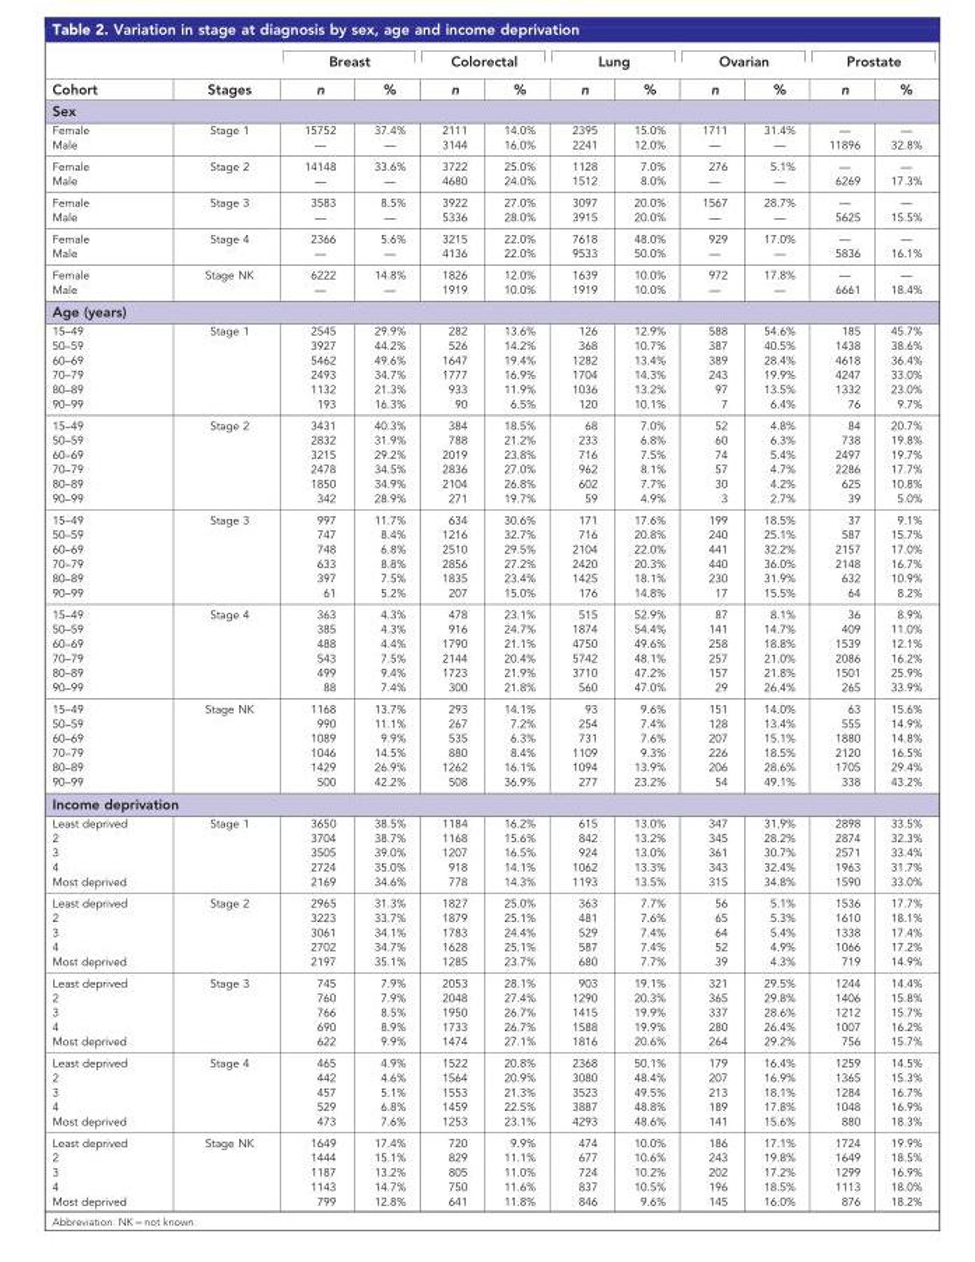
<table><thead><tr><td rowspan="2">Cohort</td><td rowspan="2">Stages</td><td colspan="2">Breast</td><td colspan="2">Colorectal</td><td colspan="2">Lung</td><td colspan="2">Ovarian</td><td colspan="2">Prostate</td></tr><tr><td>n</td><td>%</td><td>n</td><td>%</td><td>n</td><td>%</td><td>n</td><td>%</td><td>n</td><td>%</td></tr></thead><tbody><tr><td colspan="12">Sex</td></tr><tr><td>Female</td><td>Stage 1</td><td>15752</td><td>37.4%</td><td>2111</td><td>14.0%</td><td>2395</td><td>15.0%</td><td>1711</td><td>31.4%</td><td>—</td><td>—</td></tr><tr><td>Male</td><td></td><td>—</td><td>—</td><td>3144</td><td>16.0%</td><td>2241</td><td>12.0%</td><td>—</td><td>—</td><td>11896</td><td>32.8%</td></tr><tr><td>Female</td><td>Stage 2</td><td>14148</td><td>33.6%</td><td>3722</td><td>25.0%</td><td>1128</td><td>7.0%</td><td>276</td><td>5.1%</td><td>—</td><td>—</td></tr><tr><td>Male</td><td></td><td>—</td><td>—</td><td>4680</td><td>24.0%</td><td>1512</td><td>8.0%</td><td>—</td><td>—</td><td>6269</td><td>17.3%</td></tr><tr><td>Female</td><td>Stage 3</td><td>3583</td><td>8.5%</td><td>3922</td><td>27.0%</td><td>3097</td><td>20.0%</td><td>1567</td><td>28.7%</td><td>—</td><td>—</td></tr><tr><td>Male</td><td></td><td>—</td><td>—</td><td>5336</td><td>28.0%</td><td>3915</td><td>20.0%</td><td>—</td><td>—</td><td>5625</td><td>15.5%</td></tr><tr><td>Female</td><td>Stage 4</td><td>2366</td><td>5.6%</td><td>3215</td><td>22.0%</td><td>7618</td><td>48.0%</td><td>929</td><td>17.0%</td><td>—</td><td>—</td></tr><tr><td>Male</td><td></td><td>—</td><td>—</td><td>4136</td><td>22.0%</td><td>9533</td><td>50.0%</td><td>—</td><td>—</td><td>5836</td><td>16.1%</td></tr><tr><td>Female</td><td>Stage NK</td><td>6222</td><td>14.8%</td><td>1826</td><td>12.0%</td><td>1639</td><td>10.0%</td><td>972</td><td>17.8%</td><td>—</td><td>—</td></tr><tr><td>Male</td><td></td><td>—</td><td>—</td><td>1919</td><td>10.0%</td><td>1919</td><td>10.0%</td><td>—</td><td>—</td><td>6661</td><td>18.4%</td></tr><tr><td colspan="12">Age (years)</td></tr><tr><td>15–49</td><td>Stage 1</td><td>2545</td><td>29.9%</td><td>282</td><td>13.6%</td><td>126</td><td>12.9%</td><td>588</td><td>54.6%</td><td>185</td><td>45.7%</td></tr><tr><td>50–59</td><td></td><td>3927</td><td>44.2%</td><td>526</td><td>14.2%</td><td>368</td><td>10.7%</td><td>387</td><td>40.5%</td><td>1438</td><td>38.6%</td></tr><tr><td>60–69</td><td></td><td>5462</td><td>49.6%</td><td>1647</td><td>19.4%</td><td>1282</td><td>13.4%</td><td>389</td><td>28.4%</td><td>4618</td><td>36.4%</td></tr><tr><td>70–79</td><td></td><td>2493</td><td>34.7%</td><td>1777</td><td>16.9%</td><td>1704</td><td>14.3%</td><td>243</td><td>19.9%</td><td>4247</td><td>33.0%</td></tr><tr><td>80–89</td><td></td><td>1132</td><td>21.3%</td><td>933</td><td>11.9%</td><td>1036</td><td>13.2%</td><td>97</td><td>13.5%</td><td>1332</td><td>23.0%</td></tr><tr><td>90–99</td><td></td><td>193</td><td>16.3%</td><td>90</td><td>6.5%</td><td>120</td><td>10.1%</td><td>7</td><td>6.4%</td><td>76</td><td>9.7%</td></tr><tr><td>15–49</td><td>Stage 2</td><td>3431</td><td>40.3%</td><td>384</td><td>18.5%</td><td>68</td><td>7.0%</td><td>52</td><td>4.8%</td><td>84</td><td>20.7%</td></tr><tr><td>50–59</td><td></td><td>2832</td><td>31.9%</td><td>788</td><td>21.2%</td><td>233</td><td>6.8%</td><td>60</td><td>6.3%</td><td>738</td><td>19.8%</td></tr><tr><td>60–69</td><td></td><td>3215</td><td>29.2%</td><td>2019</td><td>23.8%</td><td>716</td><td>7.5%</td><td>74</td><td>5.4%</td><td>2497</td><td>19.7%</td></tr><tr><td>70–79</td><td></td><td>2478</td><td>34.5%</td><td>2836</td><td>27.0%</td><td>962</td><td>8.1%</td><td>57</td><td>4.7%</td><td>2286</td><td>17.7%</td></tr><tr><td>80–89</td><td></td><td>1850</td><td>34.9%</td><td>2104</td><td>26.8%</td><td>602</td><td>7.7%</td><td>30</td><td>4.2%</td><td>625</td><td>10.8%</td></tr><tr><td>90–99</td><td></td><td>342</td><td>28.9%</td><td>271</td><td>19.7%</td><td>59</td><td>4.9%</td><td>3</td><td>2.7%</td><td>39</td><td>5.0%</td></tr><tr><td>15–49</td><td>Stage 3</td><td>997</td><td>11.7%</td><td>634</td><td>30.6%</td><td>171</td><td>17.6%</td><td>199</td><td>18.5%</td><td>37</td><td>9.1%</td></tr><tr><td>50–59</td><td></td><td>747</td><td>8.4%</td><td>1216</td><td>32.7%</td><td>716</td><td>20.8%</td><td>240</td><td>25.1%</td><td>587</td><td>15.7%</td></tr><tr><td>60–69</td><td></td><td>748</td><td>6.8%</td><td>2510</td><td>29.5%</td><td>2104</td><td>22.0%</td><td>441</td><td>32.2%</td><td>2157</td><td>17.0%</td></tr><tr><td>70–79</td><td></td><td>633</td><td>8.8%</td><td>2856</td><td>27.2%</td><td>2420</td><td>20.3%</td><td>440</td><td>36.0%</td><td>2148</td><td>16.7%</td></tr><tr><td>80–89</td><td></td><td>397</td><td>7.5%</td><td>1835</td><td>23.4%</td><td>1425</td><td>18.1%</td><td>230</td><td>31.9%</td><td>632</td><td>10.9%</td></tr><tr><td>90–99</td><td></td><td>61</td><td>5.2%</td><td>207</td><td>15.0%</td><td>176</td><td>14.8%</td><td>17</td><td>15.5%</td><td>64</td><td>8.2%</td></tr><tr><td>15–49</td><td>Stage 4</td><td>363</td><td>4.3%</td><td>478</td><td>23.1%</td><td>515</td><td>52.9%</td><td>87</td><td>8.1%</td><td>36</td><td>8.9%</td></tr><tr><td>50–59</td><td></td><td>385</td><td>4.3%</td><td>916</td><td>24.7%</td><td>1874</td><td>54.4%</td><td>141</td><td>14.7%</td><td>409</td><td>11.0%</td></tr><tr><td>60–69</td><td></td><td>488</td><td>4.4%</td><td>1790</td><td>21.1%</td><td>4750</td><td>49.6%</td><td>258</td><td>18.8%</td><td>1539</td><td>12.1%</td></tr><tr><td>70–79</td><td></td><td>543</td><td>7.5%</td><td>2144</td><td>20.4%</td><td>5742</td><td>48.1%</td><td>257</td><td>21.0%</td><td>2086</td><td>16.2%</td></tr><tr><td>80–89</td><td></td><td>499</td><td>9.4%</td><td>1723</td><td>21.9%</td><td>3710</td><td>47.2%</td><td>157</td><td>21.8%</td><td>1501</td><td>25.9%</td></tr><tr><td>90–99</td><td></td><td>88</td><td>7.4%</td><td>300</td><td>21.8%</td><td>560</td><td>47.0%</td><td>29</td><td>26.4%</td><td>265</td><td>33.9%</td></tr><tr><td>15–49</td><td>Stage NK</td><td>1168</td><td>13.7%</td><td>293</td><td>14.1%</td><td>93</td><td>9.6%</td><td>151</td><td>14.0%</td><td>63</td><td>15.6%</td></tr><tr><td>50–59</td><td></td><td>990</td><td>11.1%</td><td>267</td><td>7.2%</td><td>254</td><td>7.4%</td><td>128</td><td>13.4%</td><td>555</td><td>14.9%</td></tr><tr><td>60–69</td><td></td><td>1089</td><td>9.9%</td><td>535</td><td>6.3%</td><td>731</td><td>7.6%</td><td>207</td><td>15.1%</td><td>1880</td><td>14.8%</td></tr><tr><td>70–79</td><td></td><td>1046</td><td>14.5%</td><td>880</td><td>8.4%</td><td>1109</td><td>9.3%</td><td>226</td><td>18.5%</td><td>2120</td><td>16.5%</td></tr><tr><td>80–89</td><td></td><td>1429</td><td>26.9%</td><td>1262</td><td>16.1%</td><td>1094</td><td>13.9%</td><td>206</td><td>28.6%</td><td>1705</td><td>29.4%</td></tr><tr><td>90–99</td><td></td><td>500</td><td>42.2%</td><td>508</td><td>36.9%</td><td>277</td><td>23.2%</td><td>54</td><td>49.1%</td><td>338</td><td>43.2%</td></tr><tr><td colspan="12">Income deprivation</td></tr><tr><td>Least deprived</td><td>Stage 1</td><td>3650</td><td>38.5%</td><td>1184</td><td>16.2%</td><td>615</td><td>13.0%</td><td>347</td><td>31.9%</td><td>2898</td><td>33.5%</td></tr><tr><td>2</td><td></td><td>3704</td><td>38.7%</td><td>1168</td><td>15.6%</td><td>842</td><td>13.2%</td><td>345</td><td>28.2%</td><td>2874</td><td>32.3%</td></tr><tr><td>3</td><td></td><td>3505</td><td>39.0%</td><td>1207</td><td>16.5%</td><td>924</td><td>13.0%</td><td>361</td><td>30.7%</td><td>2571</td><td>33.4%</td></tr><tr><td>4</td><td></td><td>2724</td><td>35.0%</td><td>918</td><td>14.1%</td><td>1062</td><td>13.3%</td><td>343</td><td>32.4%</td><td>1963</td><td>31.7%</td></tr><tr><td>Most deprived</td><td></td><td>2169</td><td>34.6%</td><td>778</td><td>14.3%</td><td>1193</td><td>13.5%</td><td>315</td><td>34.8%</td><td>1590</td><td>33.0%</td></tr><tr><td>Least deprived</td><td>Stage 2</td><td>2965</td><td>31.3%</td><td>1827</td><td>25.0%</td><td>363</td><td>7.7%</td><td>56</td><td>5.1%</td><td>1536</td><td>17.7%</td></tr><tr><td>2</td><td></td><td>3223</td><td>33.7%</td><td>1879</td><td>25.1%</td><td>481</td><td>7.6%</td><td>65</td><td>5.3%</td><td>1610</td><td>18.1%</td></tr><tr><td>3</td><td></td><td>3061</td><td>34.1%</td><td>1783</td><td>24.4%</td><td>529</td><td>7.4%</td><td>64</td><td>5.4%</td><td>1338</td><td>17.4%</td></tr><tr><td>4</td><td></td><td>2702</td><td>34.7%</td><td>1628</td><td>25.1%</td><td>587</td><td>7.4%</td><td>52</td><td>4.9%</td><td>1066</td><td>17.2%</td></tr><tr><td>Most deprived</td><td></td><td>2197</td><td>35.1%</td><td>1285</td><td>23.7%</td><td>680</td><td>7.7%</td><td>39</td><td>4.3%</td><td>719</td><td>14.9%</td></tr><tr><td>Least deprived</td><td>Stage 3</td><td>745</td><td>7.9%</td><td>2053</td><td>28.1%</td><td>903</td><td>19.1%</td><td>321</td><td>29.5%</td><td>1244</td><td>14.4%</td></tr><tr><td>2</td><td></td><td>760</td><td>7.9%</td><td>2048</td><td>27.4%</td><td>1290</td><td>20.3%</td><td>365</td><td>29.8%</td><td>1406</td><td>15.8%</td></tr><tr><td>3</td><td></td><td>766</td><td>8.5%</td><td>1950</td><td>26.7%</td><td>1415</td><td>19.9%</td><td>337</td><td>28.6%</td><td>1212</td><td>15.7%</td></tr><tr><td>4</td><td></td><td>690</td><td>8.9%</td><td>1733</td><td>26.7%</td><td>1588</td><td>19.9%</td><td>280</td><td>26.4%</td><td>1007</td><td>16.2%</td></tr><tr><td>Most deprived</td><td></td><td>622</td><td>9.9%</td><td>1474</td><td>27.1%</td><td>1816</td><td>20.6%</td><td>264</td><td>29.2%</td><td>756</td><td>15.7%</td></tr><tr><td>Least deprived</td><td>Stage 4</td><td>465</td><td>4.9%</td><td>1522</td><td>20.8%</td><td>2368</td><td>50.1%</td><td>179</td><td>16.4%</td><td>1259</td><td>14.5%</td></tr><tr><td>2</td><td></td><td>442</td><td>4.6%</td><td>1564</td><td>20.9%</td><td>3080</td><td>48.4%</td><td>207</td><td>16.9%</td><td>1365</td><td>15.3%</td></tr><tr><td>3</td><td></td><td>457</td><td>5.1%</td><td>1553</td><td>21.3%</td><td>3523</td><td>49.5%</td><td>213</td><td>18.1%</td><td>1284</td><td>16.7%</td></tr><tr><td>4</td><td></td><td>529</td><td>6.8%</td><td>1459</td><td>22.5%</td><td>3887</td><td>48.8%</td><td>189</td><td>17.8%</td><td>1048</td><td>16.9%</td></tr><tr><td>Most deprived</td><td></td><td>473</td><td>7.6%</td><td>1253</td><td>23.1%</td><td>4293</td><td>48.6%</td><td>141</td><td>15.6%</td><td>880</td><td>18.3%</td></tr><tr><td>Least deprived</td><td>Stage NK</td><td>1649</td><td>17.4%</td><td>720</td><td>9.9%</td><td>474</td><td>10.0%</td><td>186</td><td>17.1%</td><td>1724</td><td>19.9%</td></tr><tr><td>2</td><td></td><td>1444</td><td>15.1%</td><td>829</td><td>11.1%</td><td>677</td><td>10.6%</td><td>243</td><td>19.8%</td><td>1649</td><td>18.5%</td></tr><tr><td>3</td><td></td><td>1187</td><td>13.2%</td><td>805</td><td>11.0%</td><td>724</td><td>10.2%</td><td>202</td><td>17.2%</td><td>1299</td><td>16.9%</td></tr><tr><td>4</td><td></td><td>1143</td><td>14.7%</td><td>750</td><td>11.6%</td><td>837</td><td>10.5%</td><td>196</td><td>18.5%</td><td>1113</td><td>18.0%</td></tr><tr><td>Most deprived</td><td></td><td>799</td><td>12.8%</td><td>641</td><td>11.8%</td><td>846</td><td>9.6%</td><td>145</td><td>16.0%</td><td>876</td><td>18.2%</td></tr></tbody></table>